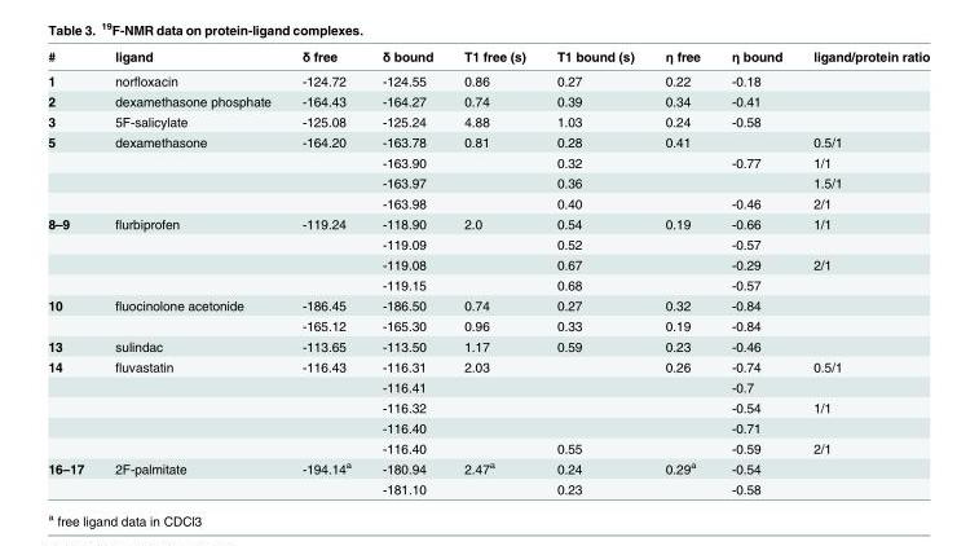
<table><thead><tr><td>#</td><td>ligand</td><td>δ free</td><td>δ bound</td><td>T1 free (s)</td><td>T1 bound (s)</td><td>η free</td><td>η bound</td><td>ligand/protein ratio</td></tr></thead><tbody><tr><td>1</td><td>norfloxacin</td><td>-124.72</td><td>-124.55</td><td>0.86</td><td>0.27</td><td>0.22</td><td>-0.18</td><td></td></tr><tr><td>2</td><td>dexamethasone phosphate</td><td>-164.43</td><td>-164.27</td><td>0.74</td><td>0.39</td><td>0.34</td><td>-0.41</td><td></td></tr><tr><td>3</td><td>5F-salicylate</td><td>-125.08</td><td>-125.24</td><td>4.88</td><td>1.03</td><td>0.24</td><td>-0.58</td><td></td></tr><tr><td rowspan="4">5</td><td>dexamethasone</td><td>-164.20</td><td>-163.78</td><td>0.81</td><td>0.28</td><td>0.41</td><td></td><td>0.5/1</td></tr><tr><td></td><td></td><td>-163.90</td><td></td><td>0.32</td><td></td><td>-0.77</td><td>1/1</td></tr><tr><td></td><td></td><td>-163.97</td><td></td><td>0.36</td><td></td><td></td><td>1.5/1</td></tr><tr><td></td><td></td><td>-163.98</td><td></td><td>0.40</td><td></td><td>-0.46</td><td>2/1</td></tr><tr><td rowspan="4">8–9</td><td>flurbiprofen</td><td>-119.24</td><td>-118.90</td><td>2.0</td><td>0.54</td><td>0.19</td><td>-0.66</td><td>1/1</td></tr><tr><td></td><td></td><td>-119.09</td><td></td><td>0.52</td><td></td><td>-0.57</td><td></td></tr><tr><td></td><td></td><td>-119.08</td><td></td><td>0.67</td><td></td><td>-0.29</td><td>2/1</td></tr><tr><td></td><td></td><td>-119.15</td><td></td><td>0.68</td><td></td><td>-0.57</td><td></td></tr><tr><td rowspan="2">10</td><td>fluocinolone acetonide</td><td>-186.45</td><td>-186.50</td><td>0.74</td><td>0.27</td><td>0.32</td><td>-0.84</td><td></td></tr><tr><td></td><td>-165.12</td><td>-165.30</td><td>0.96</td><td>0.33</td><td>0.19</td><td>-0.84</td><td></td></tr><tr><td>13</td><td>sulindac</td><td>-113.65</td><td>-113.50</td><td>1.17</td><td>0.59</td><td>0.23</td><td>-0.46</td><td></td></tr><tr><td rowspan="5">14</td><td>fluvastatin</td><td>-116.43</td><td>-116.31</td><td>2.03</td><td></td><td>0.26</td><td>-0.74</td><td>0.5/1</td></tr><tr><td></td><td></td><td>-116.41</td><td></td><td></td><td></td><td>-0.7</td><td></td></tr><tr><td></td><td></td><td>-116.32</td><td></td><td></td><td></td><td>-0.54</td><td>1/1</td></tr><tr><td></td><td></td><td>-116.40</td><td></td><td></td><td></td><td>-0.71</td><td></td></tr><tr><td></td><td></td><td>-116.40</td><td></td><td>0.55</td><td></td><td>-0.59</td><td>2/1</td></tr><tr><td rowspan="2">16–17</td><td>2F-palmitate</td><td>-194.14<sup>a</sup></td><td>-180.94</td><td>2.47<sup>a</sup></td><td>0.24</td><td>0.29<sup>a</sup></td><td>-0.54</td><td></td></tr><tr><td></td><td></td><td>-181.10</td><td></td><td>0.23</td><td></td><td>-0.58</td><td></td></tr></tbody></table>